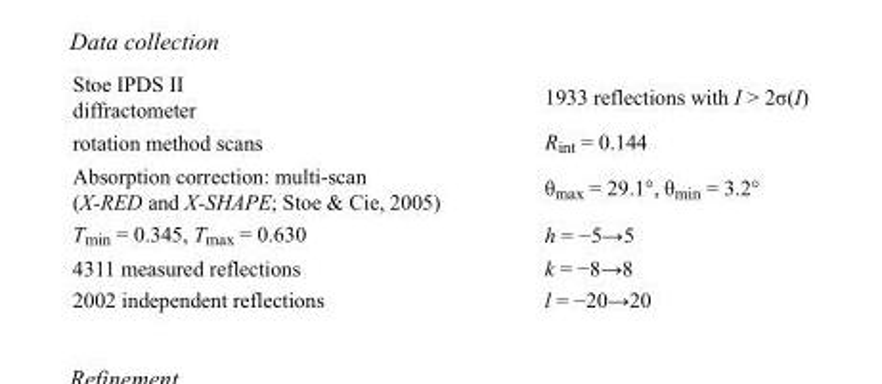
<table><tbody><tr><td>Stoe IPDS II diffractometer</td><td>1933 reflections with I &gt; 2σ(I)</td></tr><tr><td>rotation method scans</td><td>R<sub>int</sub> = 0.144</td></tr><tr><td>Absorption correction: multi-scan (X-RED and X-SHAPE; Stoe &amp; Cie, 2005)</td><td>θ<sub>max</sub> = 29.1°, θ<sub>min</sub> = 3.2°</td></tr><tr><td>T<sub>min</sub> = 0.345, T<sub>max</sub> = 0.630</td><td>h = −5→5</td></tr><tr><td>4311 measured reflections</td><td>k = −8→8</td></tr><tr><td>2002 independent reflections</td><td>l = −20→20</td></tr></tbody></table>